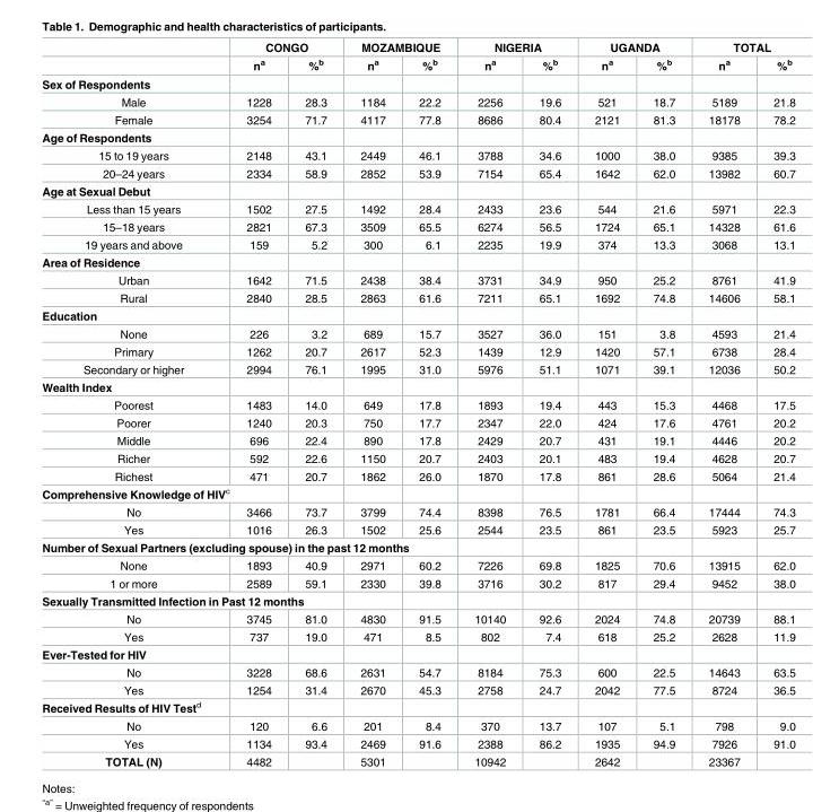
<table><thead><tr><td rowspan="2"></td><td colspan="2">CONGO</td><td colspan="2">MOZAMBIQUE</td><td colspan="2">NIGERIA</td><td colspan="2">UGANDA</td><td colspan="2">TOTAL</td></tr><tr><td>n<sup>a</sup></td><td>%<sup>b</sup></td><td>n<sup>a</sup></td><td>%<sup>b</sup></td><td>n<sup>a</sup></td><td>%<sup>b</sup></td><td>n<sup>a</sup></td><td>%<sup>b</sup></td><td>n<sup>a</sup></td><td>%<sup>b</sup></td></tr></thead><tbody><tr><td colspan="11">Sex of Respondents</td></tr><tr><td>Male</td><td>1228</td><td>28.3</td><td>1184</td><td>22.2</td><td>2256</td><td>19.6</td><td>521</td><td>18.7</td><td>5189</td><td>21.8</td></tr><tr><td>Female</td><td>3254</td><td>71.7</td><td>4117</td><td>77.8</td><td>8686</td><td>80.4</td><td>2121</td><td>81.3</td><td>18178</td><td>78.2</td></tr><tr><td colspan="11">Age of Respondents</td></tr><tr><td>15 to 19 years</td><td>2148</td><td>43.1</td><td>2449</td><td>46.1</td><td>3788</td><td>34.6</td><td>1000</td><td>38.0</td><td>9385</td><td>39.3</td></tr><tr><td>20–24 years</td><td>2334</td><td>58.9</td><td>2852</td><td>53.9</td><td>7154</td><td>65.4</td><td>1642</td><td>62.0</td><td>13982</td><td>60.7</td></tr><tr><td colspan="11">Age at Sexual Debut</td></tr><tr><td>Less than 15 years</td><td>1502</td><td>27.5</td><td>1492</td><td>28.4</td><td>2433</td><td>23.6</td><td>544</td><td>21.6</td><td>5971</td><td>22.3</td></tr><tr><td>15–18 years</td><td>2821</td><td>67.3</td><td>3509</td><td>65.5</td><td>6274</td><td>56.5</td><td>1724</td><td>65.1</td><td>14328</td><td>61.6</td></tr><tr><td>19 years and above</td><td>159</td><td>5.2</td><td>300</td><td>6.1</td><td>2235</td><td>19.9</td><td>374</td><td>13.3</td><td>3068</td><td>13.1</td></tr><tr><td colspan="11">Area of Residence</td></tr><tr><td>Urban</td><td>1642</td><td>71.5</td><td>2438</td><td>38.4</td><td>3731</td><td>34.9</td><td>950</td><td>25.2</td><td>8761</td><td>41.9</td></tr><tr><td>Rural</td><td>2840</td><td>28.5</td><td>2863</td><td>61.6</td><td>7211</td><td>65.1</td><td>1692</td><td>74.8</td><td>14606</td><td>58.1</td></tr><tr><td colspan="11">Education</td></tr><tr><td>None</td><td>226</td><td>3.2</td><td>689</td><td>15.7</td><td>3527</td><td>36.0</td><td>151</td><td>3.8</td><td>4593</td><td>21.4</td></tr><tr><td>Primary</td><td>1262</td><td>20.7</td><td>2617</td><td>52.3</td><td>1439</td><td>12.9</td><td>1420</td><td>57.1</td><td>6738</td><td>28.4</td></tr><tr><td>Secondary or higher</td><td>2994</td><td>76.1</td><td>1995</td><td>31.0</td><td>5976</td><td>51.1</td><td>1071</td><td>39.1</td><td>12036</td><td>50.2</td></tr><tr><td colspan="11">Wealth Index</td></tr><tr><td>Poorest</td><td>1483</td><td>14.0</td><td>649</td><td>17.8</td><td>1893</td><td>19.4</td><td>443</td><td>15.3</td><td>4468</td><td>17.5</td></tr><tr><td>Poorer</td><td>1240</td><td>20.3</td><td>750</td><td>17.7</td><td>2347</td><td>22.0</td><td>424</td><td>17.6</td><td>4761</td><td>20.2</td></tr><tr><td>Middle</td><td>696</td><td>22.4</td><td>890</td><td>17.8</td><td>2429</td><td>20.7</td><td>431</td><td>19.1</td><td>4446</td><td>20.2</td></tr><tr><td>Richer</td><td>592</td><td>22.6</td><td>1150</td><td>20.7</td><td>2403</td><td>20.1</td><td>483</td><td>19.4</td><td>4628</td><td>20.7</td></tr><tr><td>Richest</td><td>471</td><td>20.7</td><td>1862</td><td>26.0</td><td>1870</td><td>17.8</td><td>861</td><td>28.6</td><td>5064</td><td>21.4</td></tr><tr><td colspan="11">Comprehensive Knowledge of HIV<sup>c</sup></td></tr><tr><td>No</td><td>3466</td><td>73.7</td><td>3799</td><td>74.4</td><td>8398</td><td>76.5</td><td>1781</td><td>66.4</td><td>17444</td><td>74.3</td></tr><tr><td>Yes</td><td>1016</td><td>26.3</td><td>1502</td><td>25.6</td><td>2544</td><td>23.5</td><td>861</td><td>23.5</td><td>5923</td><td>25.7</td></tr><tr><td colspan="11">Number of Sexual Partners (excluding spouse) in the past 12 months</td></tr><tr><td>None</td><td>1893</td><td>40.9</td><td>2971</td><td>60.2</td><td>7226</td><td>69.8</td><td>1825</td><td>70.6</td><td>13915</td><td>62.0</td></tr><tr><td>1 or more</td><td>2589</td><td>59.1</td><td>2330</td><td>39.8</td><td>3716</td><td>30.2</td><td>817</td><td>29.4</td><td>9452</td><td>38.0</td></tr><tr><td colspan="11">Sexually Transmitted Infection in Past 12 months</td></tr><tr><td>No</td><td>3745</td><td>81.0</td><td>4830</td><td>91.5</td><td>10140</td><td>92.6</td><td>2024</td><td>74.8</td><td>20739</td><td>88.1</td></tr><tr><td>Yes</td><td>737</td><td>19.0</td><td>471</td><td>8.5</td><td>802</td><td>7.4</td><td>618</td><td>25.2</td><td>2628</td><td>11.9</td></tr><tr><td colspan="11">Ever-Tested for HIV</td></tr><tr><td>No</td><td>3228</td><td>68.6</td><td>2631</td><td>54.7</td><td>8184</td><td>75.3</td><td>600</td><td>22.5</td><td>14643</td><td>63.5</td></tr><tr><td>Yes</td><td>1254</td><td>31.4</td><td>2670</td><td>45.3</td><td>2758</td><td>24.7</td><td>2042</td><td>77.5</td><td>8724</td><td>36.5</td></tr><tr><td colspan="11">Received Results of HIV Test<sup>d</sup></td></tr><tr><td>No</td><td>120</td><td>6.6</td><td>201</td><td>8.4</td><td>370</td><td>13.7</td><td>107</td><td>5.1</td><td>798</td><td>9.0</td></tr><tr><td>Yes</td><td>1134</td><td>93.4</td><td>2469</td><td>91.6</td><td>2388</td><td>86.2</td><td>1935</td><td>94.9</td><td>7926</td><td>91.0</td></tr><tr><td>TOTAL (N)</td><td>4482</td><td></td><td>5301</td><td></td><td>10942</td><td></td><td>2642</td><td></td><td>23367</td><td></td></tr></tbody></table>